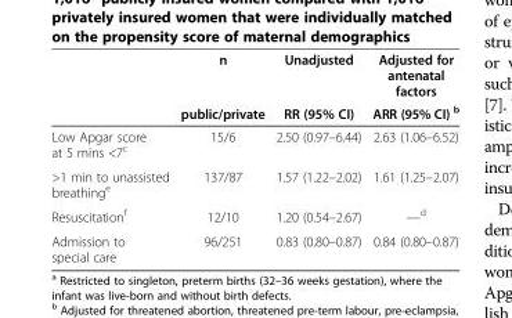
<table><thead><tr><td rowspan="2"></td><td rowspan="2">n public/private</td><td rowspan="2">Unadjusted RR (95% CI)</td><td rowspan="2">Adjusted for antenatal factors ARR (95% CI) <sup>b</sup></td></tr><tr></tr></thead><tbody><tr><td>Low Apgar score at 5 mins &lt;7<sup>c</sup></td><td>15/6</td><td>2.50 (0.97–6.44)</td><td>2.63 (1.06–6.52)</td></tr><tr><td>&gt;1 min to unassisted breathing<sup>e</sup></td><td>137/87</td><td>1.57 (1.22–2.02)</td><td>1.61 (1.25–2.07)</td></tr><tr><td>Resuscitation<sup>f</sup></td><td>12/10</td><td>1.20 (0.54–2.67)</td><td>—d</td></tr><tr><td>Admission to special care</td><td>96/251</td><td>0.83 (0.80–0.87)</td><td>0.84 (0.80–0.87)</td></tr></tbody></table>